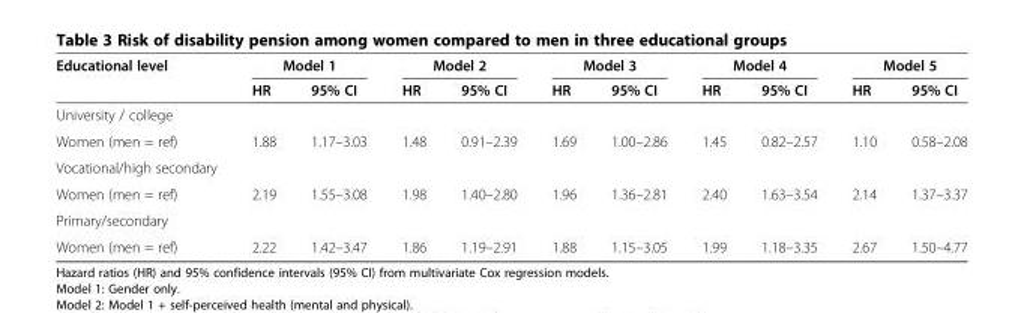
<table><thead><tr><td rowspan="2">Educational level</td><td colspan="2">Model 1</td><td colspan="2">Model 2</td><td colspan="2">Model 3</td><td colspan="2">Model 4</td><td colspan="2">Model 5</td></tr><tr><td>HR</td><td>95% CI</td><td>HR</td><td>95% CI</td><td>HR</td><td>95% CI</td><td>HR</td><td>95% CI</td><td>HR</td><td>95% CI</td></tr></thead><tbody><tr><td colspan="11">University / college</td></tr><tr><td>Women (men = ref)</td><td>1.88</td><td>1.17–3.03</td><td>1.48</td><td>0.91–2.39</td><td>1.69</td><td>1.00–2.86</td><td>1.45</td><td>0.82–2.57</td><td>1.10</td><td>0.58–2.08</td></tr><tr><td colspan="11">Vocational/high secondary</td></tr><tr><td>Women (men = ref)</td><td>2.19</td><td>1.55–3.08</td><td>1.98</td><td>1.40–2.80</td><td>1.96</td><td>1.36–2.81</td><td>2.40</td><td>1.63–3.54</td><td>2.14</td><td>1.37–3.37</td></tr><tr><td colspan="11">Primary/secondary</td></tr><tr><td>Women (men = ref)</td><td>2.22</td><td>1.42–3.47</td><td>1.86</td><td>1.19–2.91</td><td>1.88</td><td>1.15–3.05</td><td>1.99</td><td>1.18–3.35</td><td>2.67</td><td>1.50–4.77</td></tr></tbody></table>